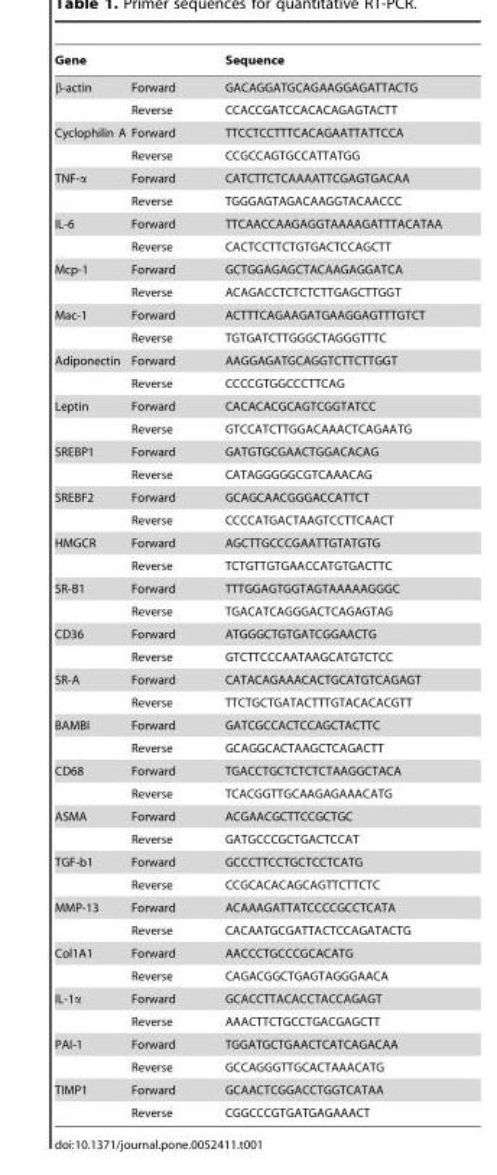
<table><thead><tr><td>Gene</td><td></td><td>Sequence</td></tr></thead><tbody><tr><td rowspan="2">β-actin</td><td>Forward</td><td>GACAGGATGCAGAAGGAGATTACTG</td></tr><tr><td>Reverse</td><td>CCACCGATCCACACAGAGTACTT</td></tr><tr><td rowspan="2">Cyclophilin A</td><td>Forward</td><td>TTCCTCCTTTCACAGAATTATTCCA</td></tr><tr><td>Reverse</td><td>CCGCCAGTGCCATTATGG</td></tr><tr><td rowspan="2">TNF-α</td><td>Forward</td><td>CATCTTCTCAAAATTCGAGTGACAA</td></tr><tr><td>Reverse</td><td>TGGGAGTAGACAAGGTACAACCC</td></tr><tr><td rowspan="2">IL-6</td><td>Forward</td><td>TTCAACCAAGAGGTAAAAGATTTACATAA</td></tr><tr><td>Reverse</td><td>CACTCCTTCTGTGACTCCAGCTT</td></tr><tr><td rowspan="2">Mcp-1</td><td>Forward</td><td>GCTGGAGAGCTACAAGAGGATCA</td></tr><tr><td>Reverse</td><td>ACAGACCTCTCTCTTGAGCTTGGT</td></tr><tr><td rowspan="2">Mac-1</td><td>Forward</td><td>ACTTTCAGAAGATGAAGGAGTTTGTCT</td></tr><tr><td>Reverse</td><td>TGTGATCTTGGGCTAGGGTTTC</td></tr><tr><td rowspan="2">Adiponectin</td><td>Forward</td><td>AAGGAGATGCAGGTCTTCTTGGT</td></tr><tr><td>Reverse</td><td>CCCCGTGGCCCTTCAG</td></tr><tr><td rowspan="2">Leptin</td><td>Forward</td><td>CACACACGCAGTCGGTATCC</td></tr><tr><td>Reverse</td><td>GTCCATCTTGGACAAACTCAGAATG</td></tr><tr><td rowspan="2">SREBP1</td><td>Forward</td><td>GATGTGCGAACTGGACACAG</td></tr><tr><td>Reverse</td><td>CATAGGGGGCGTCAAACAG</td></tr><tr><td rowspan="2">SREBF2</td><td>Forward</td><td>GCAGCAACGGGACCATTCT</td></tr><tr><td>Reverse</td><td>CCCCATGACTAAGTCCTTCAACT</td></tr><tr><td rowspan="2">HMGCR</td><td>Forward</td><td>AGCTTGCCCGAATTGTATGTG</td></tr><tr><td>Reverse</td><td>TCTGTTGTGAACCATGTGACTTC</td></tr><tr><td rowspan="2">SR-B1</td><td>Forward</td><td>TTTGGAGTGGTAGTAAAAAGGGC</td></tr><tr><td>Reverse</td><td>TGACATCAGGGACTCAGAGTAG</td></tr><tr><td rowspan="2">CD36</td><td>Forward</td><td>ATGGGCTGTGATCGGAACTG</td></tr><tr><td>Reverse</td><td>GTCTTCCCAATAAGCATGTCTCC</td></tr><tr><td rowspan="2">SR-A</td><td>Forward</td><td>CATACAGAAACACTGCATGTCAGAGT</td></tr><tr><td>Reverse</td><td>TTCTGCTGATACTTTGTACACACGTT</td></tr><tr><td rowspan="2">BAMBI</td><td>Forward</td><td>GATCGCCACTCCAGCTACTTC</td></tr><tr><td>Reverse</td><td>GCAGGCACTAAGCTCAGACTT</td></tr><tr><td rowspan="2">CD68</td><td>Forward</td><td>TGACCTGCTCTCTCTAAGGCTACA</td></tr><tr><td>Reverse</td><td>TCACGGTTGCAAGAGAAACATG</td></tr><tr><td rowspan="2">ASMA</td><td>Forward</td><td>ACGAACGCTTCCGCTGC</td></tr><tr><td>Reverse</td><td>GATGCCCGCTGACTCCAT</td></tr><tr><td rowspan="2">TGF-b1</td><td>Forward</td><td>GCCCTTCCTGCTCCTCATG</td></tr><tr><td>Reverse</td><td>CCGCACACAGCAGTTCTTCTC</td></tr><tr><td rowspan="2">MMP-13</td><td>Forward</td><td>ACAAAGATTATCCCCGCCTCATA</td></tr><tr><td>Reverse</td><td>CACAATGCGATTACTCCAGATACTG</td></tr><tr><td rowspan="2">Col1A1</td><td>Forward</td><td>AACCCTGCCCGCACATG</td></tr><tr><td>Reverse</td><td>CAGACGGCTGAGTAGGGAACA</td></tr><tr><td rowspan="2">IL-1α</td><td>Forward</td><td>GCACCTTACACCTACCAGAGT</td></tr><tr><td>Reverse</td><td>AAACTTCTGCCTGACGAGCTT</td></tr><tr><td rowspan="2">PAI-1</td><td>Forward</td><td>TGGATGCTGAACTCATCAGACAA</td></tr><tr><td>Reverse</td><td>GCCAGGGTTGCACTAAACATG</td></tr><tr><td rowspan="2">TIMP1</td><td>Forward</td><td>GCAACTCGGACCTGGTCATAA</td></tr><tr><td>Reverse</td><td>CGGCCCGTGATGAGAAACT</td></tr></tbody></table>